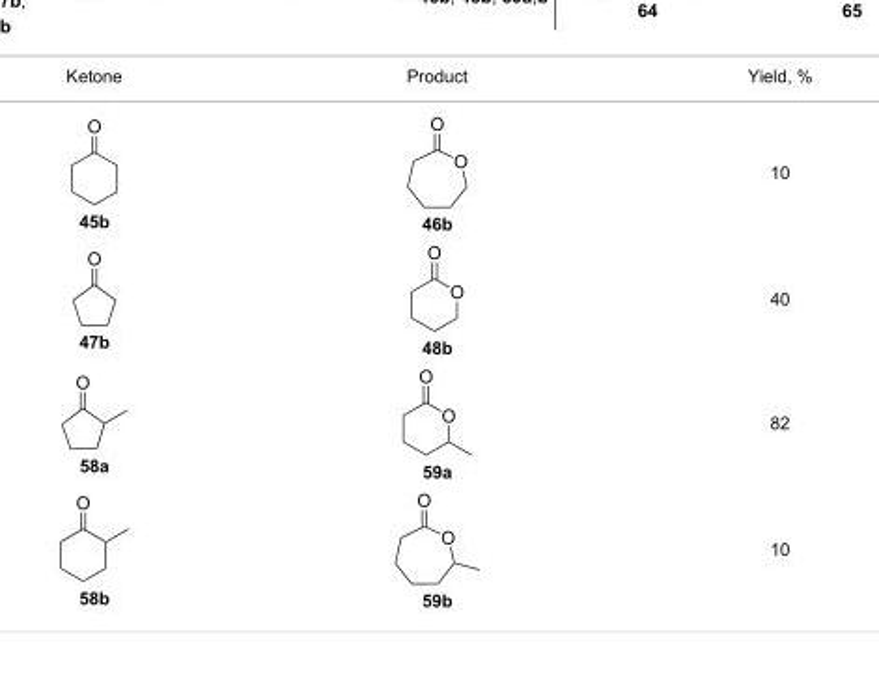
<table><tbody><tr><td>Ketone</td><td>Product</td><td>Yield, %</td></tr><tr><td>45b</td><td>46b</td><td>10</td></tr><tr><td>47b</td><td>48b</td><td>40</td></tr><tr><td>58a</td><td>59a</td><td>82</td></tr><tr><td>58b</td><td>59b</td><td>10</td></tr></tbody></table>